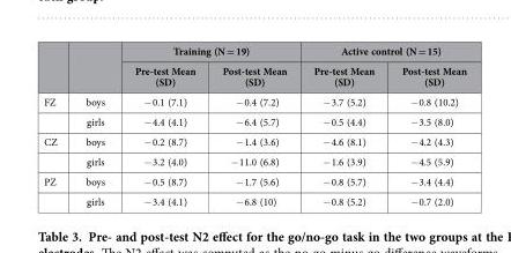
<table><thead><tr><td rowspan="2"></td><td rowspan="2"></td><td colspan="2">Training (N = 19)</td><td colspan="2">Active control (N = 15)</td></tr><tr><td>Pre-test Mean (SD)</td><td>Post-test Mean (SD)</td><td>Pre-test Mean (SD)</td><td>Post-test Mean (SD)</td></tr></thead><tbody><tr><td rowspan="2">FZ</td><td>boys</td><td>− 0.1 (7.1)</td><td>− 0.4 (7.2)</td><td>− 3.7 (5.2)</td><td>− 0.8 (10.2)</td></tr><tr><td>girls</td><td>− 4.4 (4.1)</td><td>− 6.4 (5.7)</td><td>− 0.5 (4.4)</td><td>− 3.5 (8.0)</td></tr><tr><td rowspan="2">CZ</td><td>boys</td><td>− 0.2 (8.7)</td><td>− 1.4 (3.6)</td><td>− 4.6 (8.1)</td><td>− 4.2 (4.3)</td></tr><tr><td>girls</td><td>− 3.2 (4.0)</td><td>− 11.0 (6.8)</td><td>− 1.6 (3.9)</td><td>− 4.5 (5.9)</td></tr><tr><td rowspan="2">PZ</td><td>boys</td><td>− 0.5 (8.7)</td><td>− 1.7 (5.6)</td><td>− 0.8 (5.7)</td><td>− 3.4 (4.4)</td></tr><tr><td>girls</td><td>− 3.4 (4.1)</td><td>− 6.8 (10)</td><td>− 0.8 (5.2)</td><td>− 0.7 (2.0)</td></tr></tbody></table>